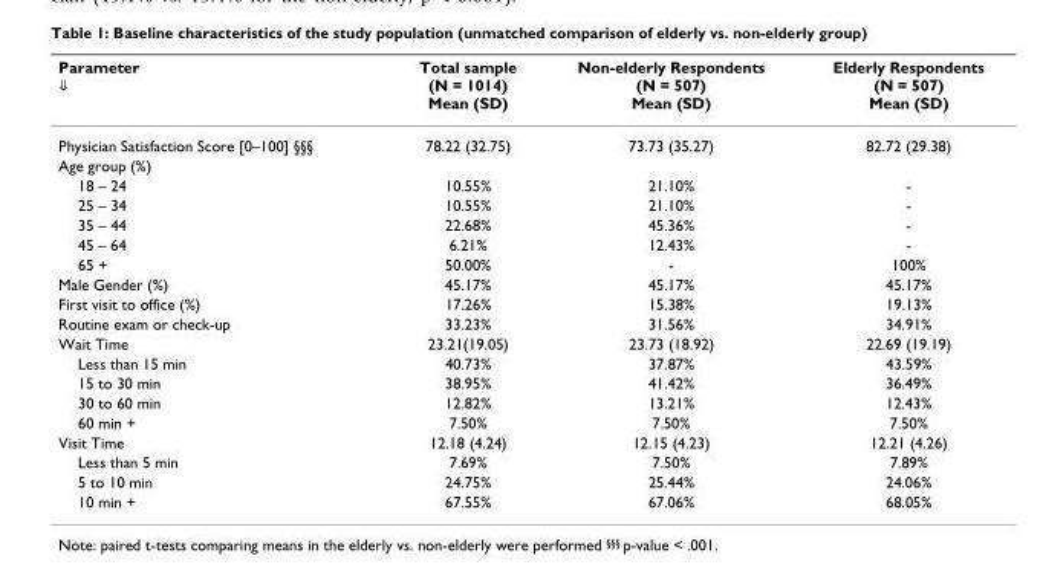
<table><thead><tr><td>Parameter ‡</td><td>Total sample (N = 1014) Mean (SD)</td><td>Non-elderly Respondents (N = 507) Mean (SD)</td><td>Elderly Respondents (N = 507) Mean (SD)</td></tr></thead><tbody><tr><td>Physician Satisfaction Score [0–100] §§§</td><td>78.22 (32.75)</td><td>73.73 (35.27)</td><td>82.72 (29.38)</td></tr><tr><td colspan="4">Age group (%)</td></tr><tr><td>18 – 24</td><td>10.55%</td><td>21.10%</td><td>-</td></tr><tr><td>25 – 34</td><td>10.55%</td><td>21.10%</td><td>-</td></tr><tr><td>35 – 44</td><td>22.68%</td><td>45.36%</td><td>-</td></tr><tr><td>45 – 64</td><td>6.21%</td><td>12.43%</td><td>-</td></tr><tr><td>65 +</td><td>50.00%</td><td>-</td><td>100%</td></tr><tr><td>Male Gender (%)</td><td>45.17%</td><td>45.17%</td><td>45.17%</td></tr><tr><td>First visit to office (%)</td><td>17.26%</td><td>15.38%</td><td>19.13%</td></tr><tr><td>Routine exam or check-up</td><td>33.23%</td><td>31.56%</td><td>34.91%</td></tr><tr><td>Wait Time</td><td>23.21(19.05)</td><td>23.73 (18.92)</td><td>22.69 (19.19)</td></tr><tr><td>Less than 15 min</td><td>40.73%</td><td>37.87%</td><td>43.59%</td></tr><tr><td>15 to 30 min</td><td>38.95%</td><td>41.42%</td><td>36.49%</td></tr><tr><td>30 to 60 min</td><td>12.82%</td><td>13.21%</td><td>12.43%</td></tr><tr><td>60 min +</td><td>7.50%</td><td>7.50%</td><td>7.50%</td></tr><tr><td>Visit Time</td><td>12.18 (4.24)</td><td>12.15 (4.23)</td><td>12.21 (4.26)</td></tr><tr><td>Less than 5 min</td><td>7.69%</td><td>7.50%</td><td>7.89%</td></tr><tr><td>5 to 10 min</td><td>24.75%</td><td>25.44%</td><td>24.06%</td></tr><tr><td>10 min +</td><td>67.55%</td><td>67.06%</td><td>68.05%</td></tr></tbody></table>